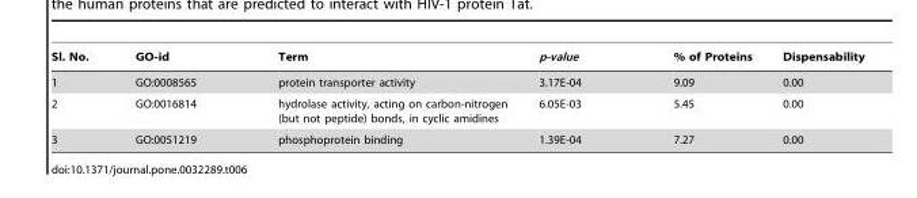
<table><thead><tr><td>Sl. No.</td><td>GO-id</td><td>Term</td><td>p-value</td><td>% of Proteins</td><td>Dispensability</td></tr></thead><tbody><tr><td>1</td><td>GO:0008565</td><td>protein transporter activity</td><td>3.17E-04</td><td>9.09</td><td>0.00</td></tr><tr><td>2</td><td>GO:0016814</td><td>hydrolase activity, acting on carbon-nitrogen (but not peptide) bonds, in cyclic amidines</td><td>6.05E-03</td><td>5.45</td><td>0.00</td></tr><tr><td>3</td><td>GO:0051219</td><td>phosphoprotein binding</td><td>1.39E-04</td><td>7.27</td><td>0.00</td></tr></tbody></table>